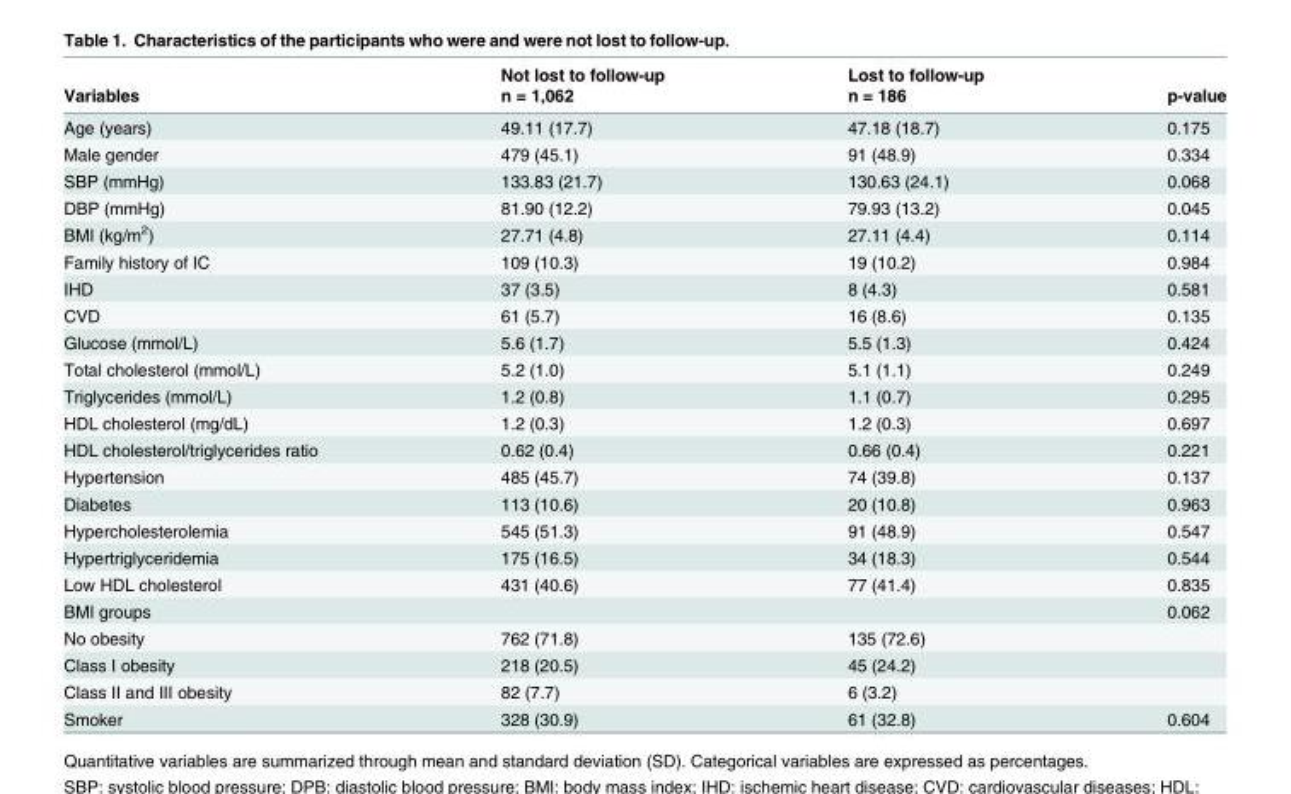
<table><thead><tr><td rowspan="2">Variables</td><td rowspan="2">Not lost to follow-up n = 1,062</td><td rowspan="2">Lost to follow-up n = 186</td><td rowspan="2">p-value</td></tr><tr></tr></thead><tbody><tr><td>Age (years)</td><td>49.11 (17.7)</td><td>47.18 (18.7)</td><td>0.175</td></tr><tr><td>Male gender</td><td>479 (45.1)</td><td>91 (48.9)</td><td>0.334</td></tr><tr><td>SBP (mmHg)</td><td>133.83 (21.7)</td><td>130.63 (24.1)</td><td>0.068</td></tr><tr><td>DBP (mmHg)</td><td>81.90 (12.2)</td><td>79.93 (13.2)</td><td>0.045</td></tr><tr><td>BMI (kg/m<sup>2</sup>)</td><td>27.71 (4.8)</td><td>27.11 (4.4)</td><td>0.114</td></tr><tr><td>Family history of IC</td><td>109 (10.3)</td><td>19 (10.2)</td><td>0.984</td></tr><tr><td>IHD</td><td>37 (3.5)</td><td>8 (4.3)</td><td>0.581</td></tr><tr><td>CVD</td><td>61 (5.7)</td><td>16 (8.6)</td><td>0.135</td></tr><tr><td>Glucose (mmol/L)</td><td>5.6 (1.7)</td><td>5.5 (1.3)</td><td>0.424</td></tr><tr><td>Total cholesterol (mmol/L)</td><td>5.2 (1.0)</td><td>5.1 (1.1)</td><td>0.249</td></tr><tr><td>Triglycerides (mmol/L)</td><td>1.2 (0.8)</td><td>1.1 (0.7)</td><td>0.295</td></tr><tr><td>HDL cholesterol (mg/dL)</td><td>1.2 (0.3)</td><td>1.2 (0.3)</td><td>0.697</td></tr><tr><td>HDL cholesterol/triglycerides ratio</td><td>0.62 (0.4)</td><td>0.66 (0.4)</td><td>0.221</td></tr><tr><td>Hypertension</td><td>485 (45.7)</td><td>74 (39.8)</td><td>0.137</td></tr><tr><td>Diabetes</td><td>113 (10.6)</td><td>20 (10.8)</td><td>0.963</td></tr><tr><td>Hypercholesterolemia</td><td>545 (51.3)</td><td>91 (48.9)</td><td>0.547</td></tr><tr><td>Hypertriglyceridemia</td><td>175 (16.5)</td><td>34 (18.3)</td><td>0.544</td></tr><tr><td>Low HDL cholesterol</td><td>431 (40.6)</td><td>77 (41.4)</td><td>0.835</td></tr><tr><td>BMI groups</td><td></td><td></td><td>0.062</td></tr><tr><td>No obesity</td><td>762 (71.8)</td><td>135 (72.6)</td><td></td></tr><tr><td>Class I obesity</td><td>218 (20.5)</td><td>45 (24.2)</td><td></td></tr><tr><td>Class II and III obesity</td><td>82 (7.7)</td><td>6 (3.2)</td><td></td></tr><tr><td>Smoker</td><td>328 (30.9)</td><td>61 (32.8)</td><td>0.604</td></tr></tbody></table>